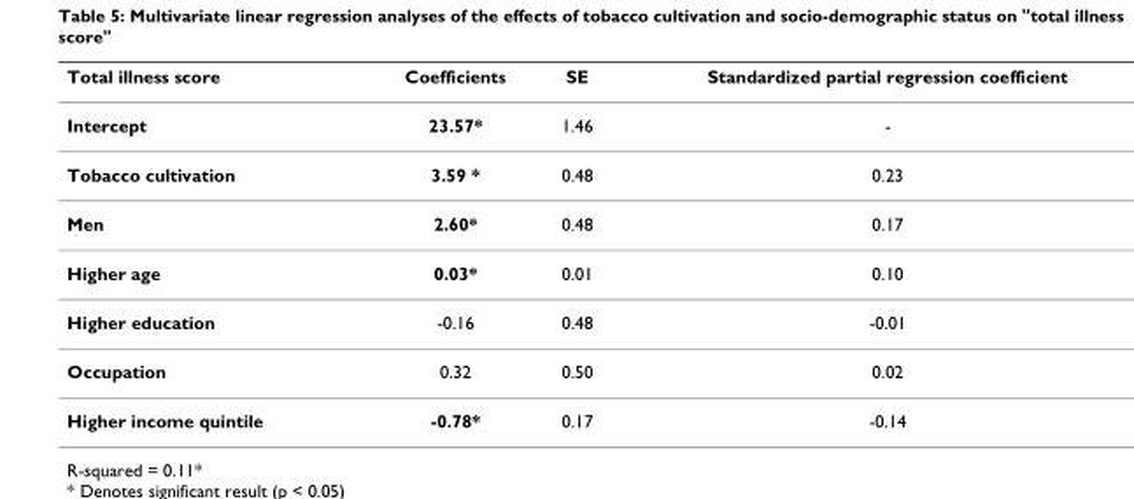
<table><thead><tr><td>Total illness score</td><td>Coefficients</td><td>SE</td><td>Standardized partial regression coefficient</td></tr></thead><tbody><tr><td>Intercept</td><td>23.57*</td><td>1.46</td><td>-</td></tr><tr><td>Tobacco cultivation</td><td>3.59 *</td><td>0.48</td><td>0.23</td></tr><tr><td>Men</td><td>2.60*</td><td>0.48</td><td>0.17</td></tr><tr><td>Higher age</td><td>0.03*</td><td>0.01</td><td>0.10</td></tr><tr><td>Higher education</td><td>-0.16</td><td>0.48</td><td>-0.01</td></tr><tr><td>Occupation</td><td>0.32</td><td>0.50</td><td>0.02</td></tr><tr><td>Higher income quintile</td><td>-0.78*</td><td>0.17</td><td>-0.14</td></tr></tbody></table>